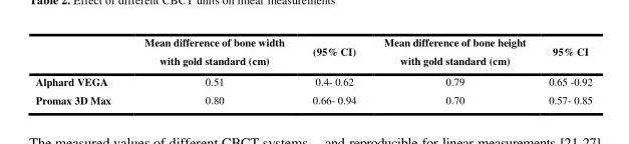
<table><thead><tr><td></td><td>Mean difference of bone width with gold standard (cm)</td><td>(95% CI)</td><td>Mean difference of bone height with gold standard (cm)</td><td>95% CI</td></tr></thead><tbody><tr><td>Alphard VEGA</td><td>0.51</td><td>0.4- 0.62</td><td>0.79</td><td>0.65 -0.92</td></tr><tr><td>Promax 3D Max</td><td>0.80</td><td>0.66- 0.94</td><td>0.70</td><td>0.57- 0.85</td></tr></tbody></table>